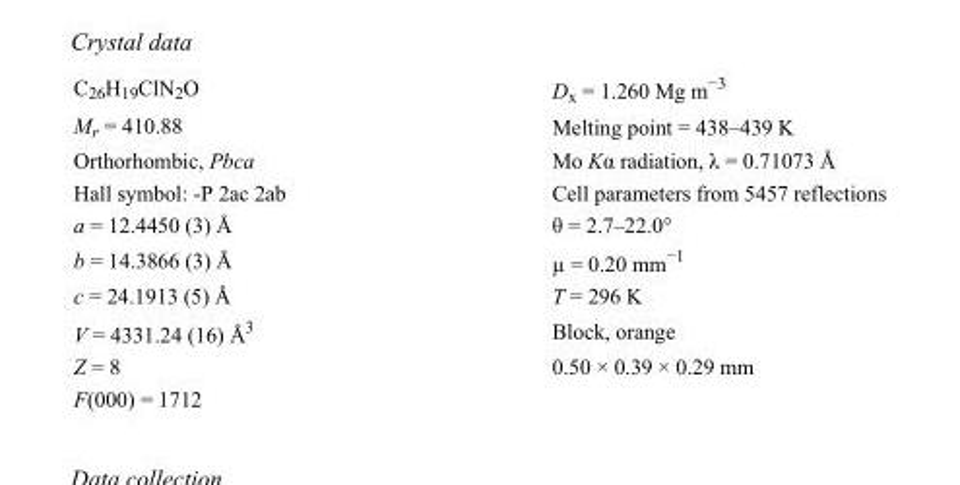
<table><tbody><tr><td>C<sub>26</sub>H<sub>19</sub>ClN<sub>2</sub>O</td><td>D<sub>x</sub> = 1.260 Mg m<sup>−3</sup></td></tr><tr><td>M<sub>r</sub> = 410.88</td><td>Melting point = 438–439 K</td></tr><tr><td>Orthorhombic, Pbca</td><td>Mo Kα radiation, λ = 0.71073 Å</td></tr><tr><td>Hall symbol: -P 2ac 2ab</td><td>Cell parameters from 5457 reflections</td></tr><tr><td>a = 12.4450 (3) Å</td><td>θ = 2.7–22.0°</td></tr><tr><td>b = 14.3866 (3) Å</td><td>µ = 0.20 mm<sup>−1</sup></td></tr><tr><td>c = 24.1913 (5) Å</td><td>T = 296 K</td></tr><tr><td>V = 4331.24 (16) Å<sup>3</sup></td><td>Block, orange</td></tr><tr><td>Z = 8</td><td>0.50 × 0.39 × 0.29 mm</td></tr><tr><td>F(000) = 1712</td><td></td></tr></tbody></table>